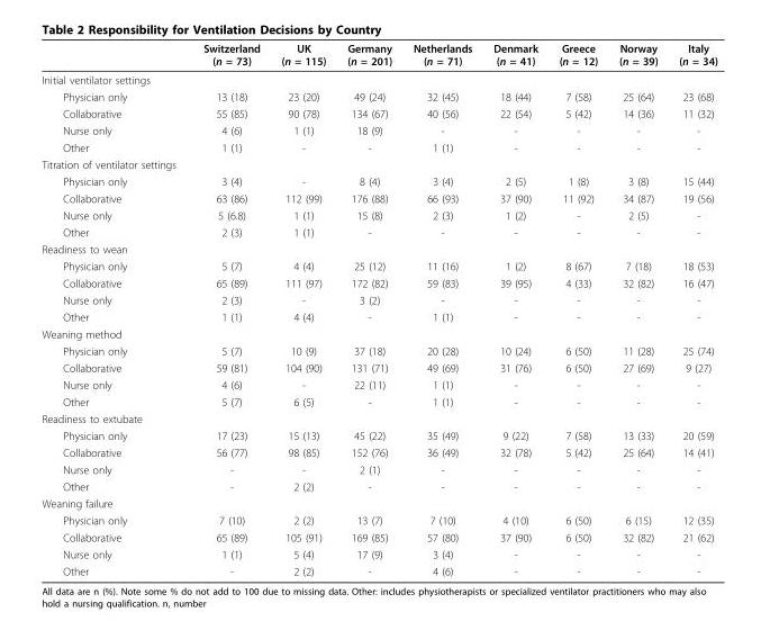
<table><thead><tr><td></td><td>Switzerland (n = 73)</td><td>UK (n = 115)</td><td>Germany (n = 201)</td><td>Netherlands (n = 71)</td><td>Denmark (n = 41)</td><td>Greece (n = 12)</td><td>Norway (n = 39)</td><td>Italy (n = 34)</td></tr></thead><tbody><tr><td colspan="9">Initial ventilator settings</td></tr><tr><td>Physician only</td><td>13 (18)</td><td>23 (20)</td><td>49 (24)</td><td>32 (45)</td><td>18 (44)</td><td>7 (58)</td><td>25 (64)</td><td>23 (68)</td></tr><tr><td>Collaborative</td><td>55 (85)</td><td>90 (78)</td><td>134 (67)</td><td>40 (56)</td><td>22 (54)</td><td>5 (42)</td><td>14 (36)</td><td>11 (32)</td></tr><tr><td>Nurse only</td><td>4 (6)</td><td>1 (1)</td><td>18 (9)</td><td>-</td><td>-</td><td>-</td><td>-</td><td>-</td></tr><tr><td>Other</td><td>1 (1)</td><td>-</td><td>-</td><td>1 (1)</td><td>-</td><td>-</td><td>-</td><td>-</td></tr><tr><td colspan="9">Titration of ventilator settings</td></tr><tr><td>Physician only</td><td>3 (4)</td><td>-</td><td>8 (4)</td><td>3 (4)</td><td>2 (5)</td><td>1 (8)</td><td>3 (8)</td><td>15 (44)</td></tr><tr><td>Collaborative</td><td>63 (86)</td><td>112 (99)</td><td>176 (88)</td><td>66 (93)</td><td>37 (90)</td><td>11 (92)</td><td>34 (87)</td><td>19 (56)</td></tr><tr><td>Nurse only</td><td>5 (6.8)</td><td>1 (1)</td><td>15 (8)</td><td>2 (3)</td><td>1 (2)</td><td>-</td><td>2 (5)</td><td>-</td></tr><tr><td>Other</td><td>2 (3)</td><td>1 (1)</td><td>-</td><td>-</td><td>-</td><td>-</td><td>-</td><td>-</td></tr><tr><td colspan="9">Readiness to wean</td></tr><tr><td>Physician only</td><td>5 (7)</td><td>4 (4)</td><td>25 (12)</td><td>11 (16)</td><td>1 (2)</td><td>8 (67)</td><td>7 (18)</td><td>18 (53)</td></tr><tr><td>Collaborative</td><td>65 (89)</td><td>111 (97)</td><td>172 (82)</td><td>59 (83)</td><td>39 (95)</td><td>4 (33)</td><td>32 (82)</td><td>16 (47)</td></tr><tr><td>Nurse only</td><td>2 (3)</td><td>-</td><td>3 (2)</td><td>-</td><td>-</td><td>-</td><td>-</td><td>-</td></tr><tr><td>Other</td><td>1 (1)</td><td>4 (4)</td><td>-</td><td>1 (1)</td><td>-</td><td>-</td><td>-</td><td>-</td></tr><tr><td colspan="9">Weaning method</td></tr><tr><td>Physician only</td><td>5 (7)</td><td>10 (9)</td><td>37 (18)</td><td>20 (28)</td><td>10 (24)</td><td>6 (50)</td><td>11 (28)</td><td>25 (74)</td></tr><tr><td>Collaborative</td><td>59 (81)</td><td>104 (90)</td><td>131 (71)</td><td>49 (69)</td><td>31 (76)</td><td>6 (50)</td><td>27 (69)</td><td>9 (27)</td></tr><tr><td>Nurse only</td><td>4 (6)</td><td>-</td><td>22 (11)</td><td>1 (1)</td><td>-</td><td>-</td><td>-</td><td>-</td></tr><tr><td>Other</td><td>5 (7)</td><td>6 (5)</td><td>-</td><td>1 (1)</td><td>-</td><td>-</td><td>-</td><td>-</td></tr><tr><td colspan="9">Readiness to extubate</td></tr><tr><td>Physician only</td><td>17 (23)</td><td>15 (13)</td><td>45 (22)</td><td>35 (49)</td><td>9 (22)</td><td>7 (58)</td><td>13 (33)</td><td>20 (59)</td></tr><tr><td>Collaborative</td><td>56 (77)</td><td>98 (85)</td><td>152 (76)</td><td>36 (49)</td><td>32 (78)</td><td>5 (42)</td><td>25 (64)</td><td>14 (41)</td></tr><tr><td>Nurse only</td><td>-</td><td>-</td><td>2 (1)</td><td>-</td><td>-</td><td>-</td><td>-</td><td>-</td></tr><tr><td>Other</td><td>-</td><td>2 (2)</td><td>-</td><td>-</td><td>-</td><td>-</td><td>-</td><td>-</td></tr><tr><td colspan="9">Weaning failure</td></tr><tr><td>Physician only</td><td>7 (10)</td><td>2 (2)</td><td>13 (7)</td><td>7 (10)</td><td>4 (10)</td><td>6 (50)</td><td>6 (15)</td><td>12 (35)</td></tr><tr><td>Collaborative</td><td>65 (89)</td><td>105 (91)</td><td>169 (85)</td><td>57 (80)</td><td>37 (90)</td><td>6 (50)</td><td>32 (82)</td><td>21 (62)</td></tr><tr><td>Nurse only</td><td>1 (1)</td><td>5 (4)</td><td>17 (9)</td><td>3 (4)</td><td>-</td><td>-</td><td>-</td><td>-</td></tr><tr><td>Other</td><td>-</td><td>2 (2)</td><td>-</td><td>4 (6)</td><td>-</td><td>-</td><td>-</td><td>-</td></tr></tbody></table>